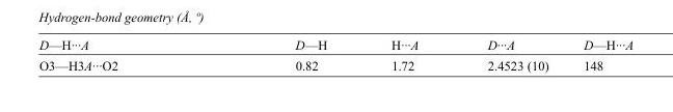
<table><tbody><tr><td>D—H···A</td><td>D—H</td><td>H···A</td><td>D···A</td><td>D—H···A</td></tr><tr><td>O3—H3A···O2</td><td>0.82</td><td>1.72</td><td>2.4523 (10)</td><td>148</td></tr></tbody></table>